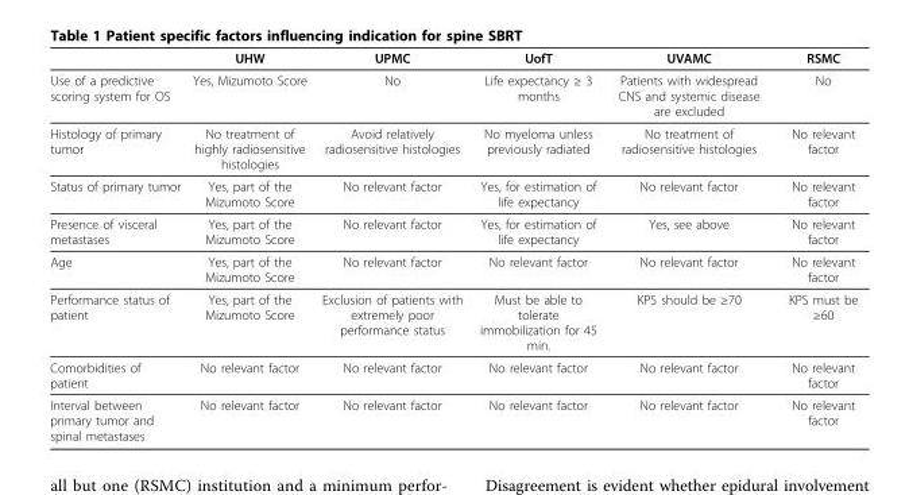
<table><thead><tr><td></td><td>UHW</td><td>UPMC</td><td>UofT</td><td>UVAMC</td><td>RSMC</td></tr></thead><tbody><tr><td>Use of a predictive scoring system for OS</td><td>Yes, Mizumoto Score</td><td>No</td><td>Life expectancy ≥ 3 months</td><td>Patients with widespread CNS and systemic disease are excluded</td><td>No</td></tr><tr><td>Histology of primary tumor</td><td>No treatment of highly radiosensitive histologies</td><td>Avoid relatively radiosensitive histologies</td><td>No myeloma unless previously radiated</td><td>No treatment of radiosensitive histologies</td><td>No relevant factor</td></tr><tr><td>Status of primary tumor</td><td>Yes, part of the Mizumoto Score</td><td>No relevant factor</td><td>Yes, for estimation of life expectancy</td><td>No relevant factor</td><td>No relevant factor</td></tr><tr><td>Presence of visceral metastases</td><td>Yes, part of the Mizumoto Score</td><td>No relevant factor</td><td>Yes, for estimation of life expectancy</td><td>Yes, see above</td><td>No relevant factor</td></tr><tr><td>Age</td><td>Yes, part of the Mizumoto Score</td><td>No relevant factor</td><td>No relevant factor</td><td>No relevant factor</td><td>No relevant factor</td></tr><tr><td>Performance status of patient</td><td>Yes, part of the Mizumoto Score</td><td>Exclusion of patients with extremely poor performance status</td><td>Must be able to tolerate immobilization for 45 min.</td><td>KPS should be ≥70</td><td>KPS must be ≥60</td></tr><tr><td>Comorbidities of patient</td><td>No relevant factor</td><td>No relevant factor</td><td>No relevant factor</td><td>No relevant factor</td><td>No relevant factor</td></tr><tr><td>Interval between primary tumor and spinal metastases</td><td>No relevant factor</td><td>No relevant factor</td><td>No relevant factor</td><td>No relevant factor</td><td>No relevant factor</td></tr></tbody></table>